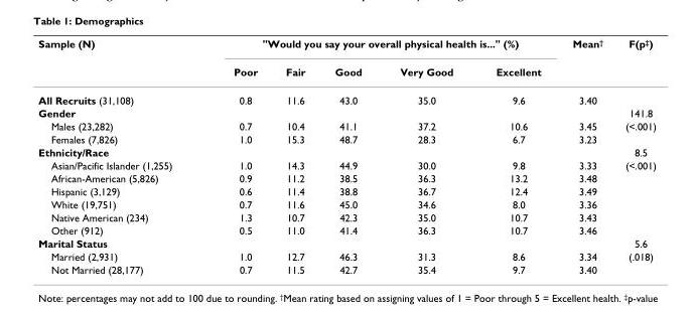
<table><thead><tr><td rowspan="2">Sample (N)</td><td colspan="5">&quot;Would you say your overall physical health is...&quot; (%)</td><td rowspan="2">Mean<sup>†</sup></td><td rowspan="2">F(p‡)</td></tr><tr><td>Poor</td><td>Fair</td><td>Good</td><td>Very Good</td><td>Excellent</td></tr></thead><tbody><tr><td>All Recruits (31,108)</td><td>0.8</td><td>11.6</td><td>43.0</td><td>35.0</td><td>9.6</td><td>3.40</td><td></td></tr><tr><td>Gender</td><td></td><td></td><td></td><td></td><td></td><td></td><td>141.8</td></tr><tr><td>Males (23,282)</td><td>0.7</td><td>10.4</td><td>41.1</td><td>37.2</td><td>10.6</td><td>3.45</td><td>(&lt;.001)</td></tr><tr><td>Females (7,826)</td><td>1.0</td><td>15.3</td><td>48.7</td><td>28.3</td><td>6.7</td><td>3.23</td><td></td></tr><tr><td>Ethnicity/Race</td><td></td><td></td><td></td><td></td><td></td><td></td><td>8.5</td></tr><tr><td>Asian/Pacific Islander (1,255)</td><td>1.0</td><td>14.3</td><td>44.9</td><td>30.0</td><td>9.8</td><td>3.33</td><td>(&lt;.001)</td></tr><tr><td>African-American (5,826)</td><td>0.9</td><td>11.2</td><td>38.5</td><td>36.3</td><td>13.2</td><td>3.48</td><td></td></tr><tr><td>Hispanic (3,129)</td><td>0.6</td><td>11.4</td><td>38.8</td><td>36.7</td><td>12.4</td><td>3.49</td><td></td></tr><tr><td>White (19,751)</td><td>0.7</td><td>11.6</td><td>45.0</td><td>34.6</td><td>8.0</td><td>3.36</td><td></td></tr><tr><td>Native American (234)</td><td>1.3</td><td>10.7</td><td>42.3</td><td>35.0</td><td>10.7</td><td>3.43</td><td></td></tr><tr><td>Other (912)</td><td>0.5</td><td>11.0</td><td>41.4</td><td>36.3</td><td>10.7</td><td>3.46</td><td></td></tr><tr><td>Marital Status</td><td></td><td></td><td></td><td></td><td></td><td></td><td>5.6</td></tr><tr><td>Married (2,931)</td><td>1.0</td><td>12.7</td><td>46.3</td><td>31.3</td><td>8.6</td><td>3.34</td><td>(.018)</td></tr><tr><td>Not Married (28,177)</td><td>0.7</td><td>11.5</td><td>42.7</td><td>35.4</td><td>9.7</td><td>3.40</td><td></td></tr></tbody></table>